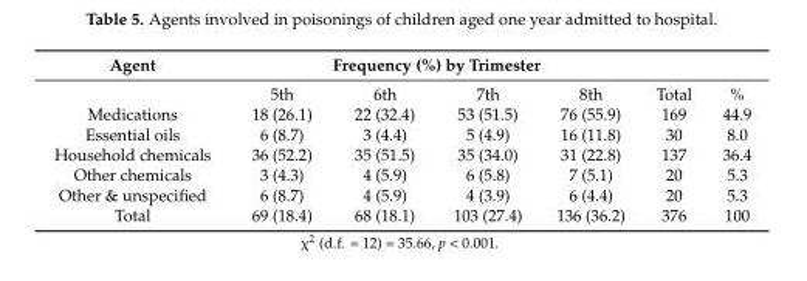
<table><thead><tr><td rowspan="2">Agent</td><td colspan="4">Frequency (%) by Trimester</td><td rowspan="2">Total</td><td rowspan="2">%</td></tr><tr><td>5th</td><td>6th</td><td>7th</td><td>8th</td></tr></thead><tbody><tr><td>Medications</td><td>18 (26.1)</td><td>22 (32.4)</td><td>53 (51.5)</td><td>76 (55.9)</td><td>169</td><td>44.9</td></tr><tr><td>Essential oils</td><td>6 (8.7)</td><td>3 (4.4)</td><td>5 (4.9)</td><td>16 (11.8)</td><td>30</td><td>8.0</td></tr><tr><td>Household chemicals</td><td>36 (52.2)</td><td>35 (51.5)</td><td>35 (34.0)</td><td>31 (22.8)</td><td>137</td><td>36.4</td></tr><tr><td>Other chemicals</td><td>3 (4.3)</td><td>4 (5.9)</td><td>6 (5.8)</td><td>7 (5.1)</td><td>20</td><td>5.3</td></tr><tr><td>Other &amp; unspecified</td><td>6 (8.7)</td><td>4 (5.9)</td><td>4 (3.9)</td><td>6 (4.4)</td><td>20</td><td>5.3</td></tr><tr><td>Total</td><td>69 (18.4)</td><td>68 (18.1)</td><td>103 (27.4)</td><td>136 (36.2)</td><td>376</td><td>100</td></tr></tbody></table>